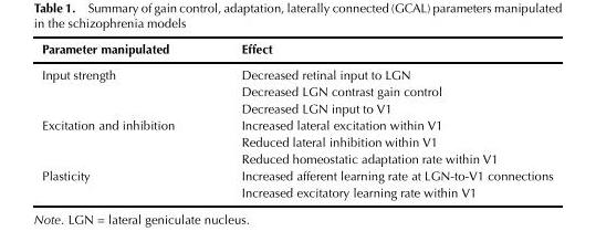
<table><thead><tr><td>Parameter manipulated</td><td>Effect</td></tr></thead><tbody><tr><td rowspan="3">Input strength</td><td>Decreased retinal input to LGN</td></tr><tr><td>Decreased LGN contrast gain control</td></tr><tr><td>Decreased LGN input to V1</td></tr><tr><td rowspan="3">Excitation and inhibition</td><td>Increased lateral excitation within V1</td></tr><tr><td>Reduced lateral inhibition within V1</td></tr><tr><td>Reduced homeostatic adaptation rate within V1</td></tr><tr><td rowspan="2">Plasticity</td><td>Increased afferent learning rate at LGN-to-V1 connections</td></tr><tr><td>Increased excitatory learning rate within V1</td></tr></tbody></table>